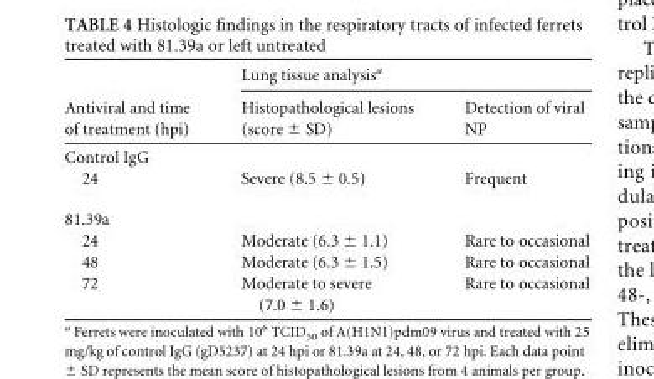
<table><thead><tr><td rowspan="2">Antiviral and time of treatment (hpi)</td><td colspan="2">Lung tissue analysis<sup>a</sup></td></tr><tr><td>Histopathological lesions (score ± SD)</td><td>Detection of viral NP</td></tr></thead><tbody><tr><td colspan="3">Control IgG</td></tr><tr><td>24</td><td>Severe (8.5 ± 0.5)</td><td>Frequent</td></tr><tr><td colspan="3">81.39a</td></tr><tr><td>24</td><td>Moderate (6.3 ± 1.1)</td><td>Rare to occasional</td></tr><tr><td>48</td><td>Moderate (6.3 ± 1.5)</td><td>Rare to occasional</td></tr><tr><td>72</td><td>Moderate to severe (7.0 ± 1.6)</td><td>Rare to occasional</td></tr></tbody></table>